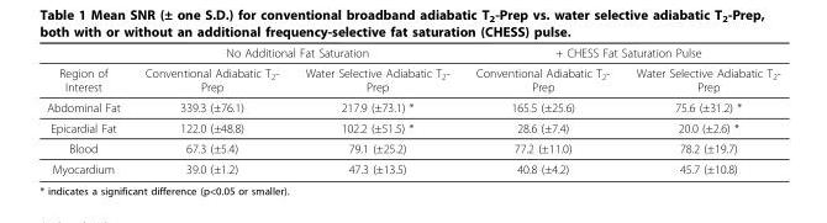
<table><thead><tr><td rowspan="2">Region of Interest</td><td colspan="2">No Additional Fat Saturation</td><td colspan="2">+ CHESS Fat Saturation Pulse</td></tr><tr><td>Conventional Adiabatic T<sub>2</sub>- Prep</td><td>Water Selective Adiabatic T<sub>2</sub>- Prep</td><td>Conventional Adiabatic T<sub>2</sub>- Prep</td><td>Water Selective Adiabatic T<sub>2</sub>- Prep</td></tr></thead><tbody><tr><td>Abdominal Fat</td><td>339.3 (±76.1)</td><td>217.9 (±73.1) *</td><td>165.5 (±25.6)</td><td>75.6 (±31.2) *</td></tr><tr><td>Epicardial Fat</td><td>122.0 (±48.8)</td><td>102.2 (±51.5) *</td><td>28.6 (±7.4)</td><td>20.0 (±2.6) *</td></tr><tr><td>Blood</td><td>67.3 (±5.4)</td><td>79.1 (±25.2)</td><td>77.2 (±11.0)</td><td>78.2 (±19.7)</td></tr><tr><td>Myocardium</td><td>39.0 (±1.2)</td><td>47.3 (±13.5)</td><td>40.8 (±4.2)</td><td>45.7 (±10.8)</td></tr></tbody></table>